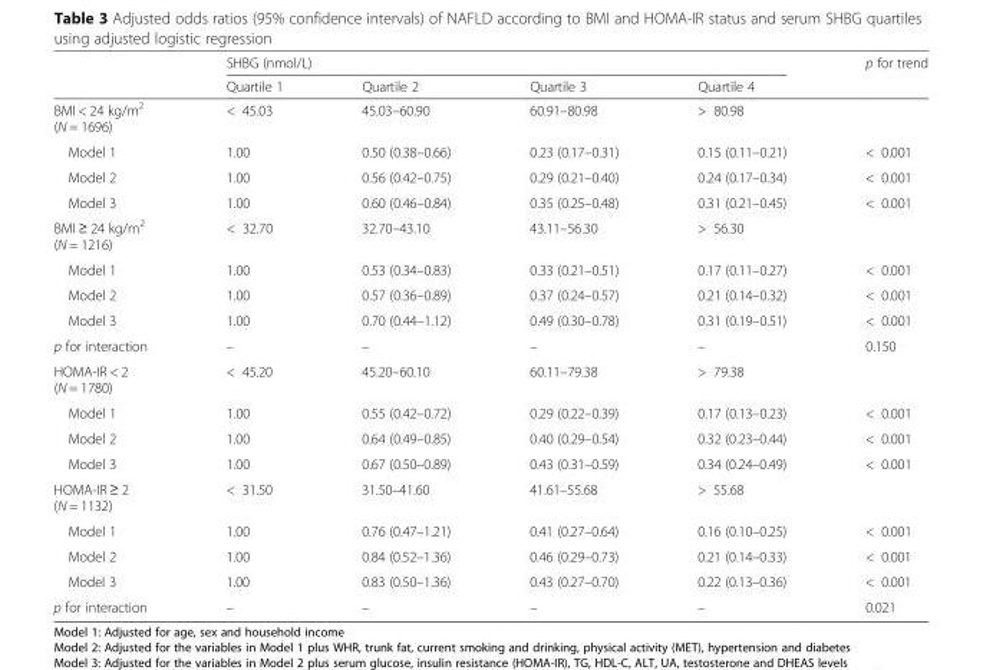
<table><thead><tr><td rowspan="2"></td><td colspan="4">SHBG (nmol/L)</td><td rowspan="2">p for trend</td></tr><tr><td>Quartile 1</td><td>Quartile 2</td><td>Quartile 3</td><td>Quartile 4</td></tr></thead><tbody><tr><td>BMI &lt; 24 kg/m<sup>2</sup> (N = 1696)</td><td>&lt; 45.03</td><td>45.03–60.90</td><td>60.91–80.98</td><td>&gt; 80.98</td><td></td></tr><tr><td>Model 1</td><td>1.00</td><td>0.50 (0.38–0.66)</td><td>0.23 (0.17–0.31)</td><td>0.15 (0.11–0.21)</td><td>&lt; 0.001</td></tr><tr><td>Model 2</td><td>1.00</td><td>0.56 (0.42–0.75)</td><td>0.29 (0.21–0.40)</td><td>0.24 (0.17–0.34)</td><td>&lt; 0.001</td></tr><tr><td>Model 3</td><td>1.00</td><td>0.60 (0.46–0.84)</td><td>0.35 (0.25–0.48)</td><td>0.31 (0.21–0.45)</td><td>&lt; 0.001</td></tr><tr><td>BMI ≥ 24 kg/m<sup>2</sup> (N = 1216)</td><td>&lt; 32.70</td><td>32.70–43.10</td><td>43.11–56.30</td><td>&gt; 56.30</td><td></td></tr><tr><td>Model 1</td><td>1.00</td><td>0.53 (0.34–0.83)</td><td>0.33 (0.21–0.51)</td><td>0.17 (0.11–0.27)</td><td>&lt; 0.001</td></tr><tr><td>Model 2</td><td>1.00</td><td>0.57 (0.36–0.89)</td><td>0.37 (0.24–0.57)</td><td>0.21 (0.14–0.32)</td><td>&lt; 0.001</td></tr><tr><td>Model 3</td><td>1.00</td><td>0.70 (0.44–1.12)</td><td>0.49 (0.30–0.78)</td><td>0.31 (0.19–0.51)</td><td>&lt; 0.001</td></tr><tr><td>p for interaction</td><td>–</td><td>–</td><td>–</td><td>–</td><td>0.150</td></tr><tr><td>HOMA-IR &lt; 2 (N = 1780)</td><td>&lt; 45.20</td><td>45.20–60.10</td><td>60.11–79.38</td><td>&gt; 79.38</td><td></td></tr><tr><td>Model 1</td><td>1.00</td><td>0.55 (0.42–0.72)</td><td>0.29 (0.22–0.39)</td><td>0.17 (0.13–0.23)</td><td>&lt; 0.001</td></tr><tr><td>Model 2</td><td>1.00</td><td>0.64 (0.49–0.85)</td><td>0.40 (0.29–0.54)</td><td>0.32 (0.23–0.44)</td><td>&lt; 0.001</td></tr><tr><td>Model 3</td><td>1.00</td><td>0.67 (0.50–0.89)</td><td>0.43 (0.31–0.59)</td><td>0.34 (0.24–0.49)</td><td>&lt; 0.001</td></tr><tr><td>HOMA-IR ≥ 2 (N = 1132)</td><td>&lt; 31.50</td><td>31.50–41.60</td><td>41.61–55.68</td><td>&gt; 55.68</td><td></td></tr><tr><td>Model 1</td><td>1.00</td><td>0.76 (0.47–1.21)</td><td>0.41 (0.27–0.64)</td><td>0.16 (0.10–0.25)</td><td>&lt; 0.001</td></tr><tr><td>Model 2</td><td>1.00</td><td>0.84 (0.52–1.36)</td><td>0.46 (0.29–0.73)</td><td>0.21 (0.14–0.33)</td><td>&lt; 0.001</td></tr><tr><td>Model 3</td><td>1.00</td><td>0.83 (0.50–1.36)</td><td>0.43 (0.27–0.70)</td><td>0.22 (0.13–0.36)</td><td>&lt; 0.001</td></tr><tr><td>p for interaction</td><td>–</td><td>–</td><td>–</td><td>–</td><td>0.021</td></tr></tbody></table>